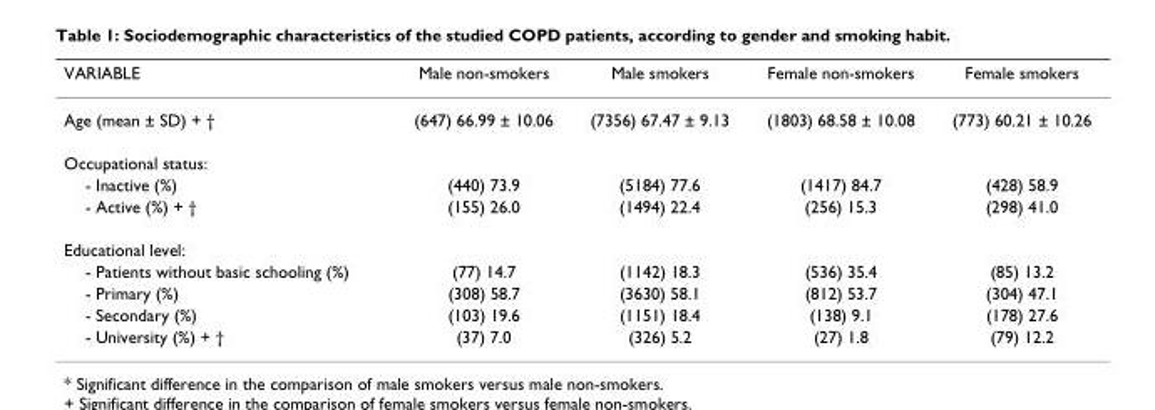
<table><thead><tr><td>VARIABLE</td><td>Male non-smokers</td><td>Male smokers</td><td>Female non-smokers</td><td>Female smokers</td></tr></thead><tbody><tr><td>Age (mean ± SD) + †</td><td>(647) 66.99 ± 10.06</td><td>(7356) 67.47 ± 9.13</td><td>(1803) 68.58 ± 10.08</td><td>(773) 60.21 ± 10.26</td></tr><tr><td colspan="5">Occupational status:</td></tr><tr><td>- Inactive (%)</td><td>(440) 73.9</td><td>(5184) 77.6</td><td>(1417) 84.7</td><td>(428) 58.9</td></tr><tr><td>- Active (%) + †</td><td>(155) 26.0</td><td>(1494) 22.4</td><td>(256) 15.3</td><td>(298) 41.0</td></tr><tr><td colspan="5">Educational level:</td></tr><tr><td>- Patients without basic schooling (%)</td><td>(77) 14.7</td><td>(1142) 18.3</td><td>(536) 35.4</td><td>(85) 13.2</td></tr><tr><td>- Primary (%)</td><td>(308) 58.7</td><td>(3630) 58.1</td><td>(812) 53.7</td><td>(304) 47.1</td></tr><tr><td>- Secondary (%)</td><td>(103) 19.6</td><td>(1151) 18.4</td><td>(138) 9.1</td><td>(178) 27.6</td></tr><tr><td>- University (%) + †</td><td>(37) 7.0</td><td>(326) 5.2</td><td>(27) 1.8</td><td>(79) 12.2</td></tr></tbody></table>